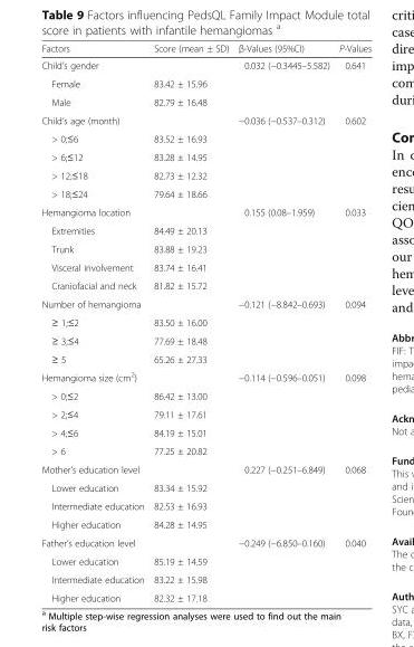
<table><thead><tr><td>Factors</td><td>Score (mean ± SD)</td><td>β-Values (95%CI)</td><td>P-Values</td></tr></thead><tbody><tr><td>Child’s gender</td><td></td><td>0.032 (−0.3445–5.582)</td><td>0.641</td></tr><tr><td>Female</td><td>83.42 ± 15.96</td><td></td><td></td></tr><tr><td>Male</td><td>82.79 ± 16.48</td><td></td><td></td></tr><tr><td>Child’s age (month)</td><td></td><td>−0.036 (−0.537–0.312)</td><td>0.602</td></tr><tr><td>&gt; 0;≤6</td><td>83.52 ± 16.93</td><td></td><td></td></tr><tr><td>&gt; 6;≤12</td><td>83.28 ± 14.95</td><td></td><td></td></tr><tr><td>&gt; 12;≤18</td><td>82.73 ± 12.32</td><td></td><td></td></tr><tr><td>&gt; 18;≤24</td><td>79.64 ± 18.66</td><td></td><td></td></tr><tr><td>Hemangioma location</td><td></td><td>0.155 (0.08–1.959)</td><td>0.033</td></tr><tr><td>Extremities</td><td>84.49 ± 20.13</td><td></td><td></td></tr><tr><td>Trunk</td><td>83.88 ± 19.23</td><td></td><td></td></tr><tr><td>Visceral involvement</td><td>83.74 ± 16.41</td><td></td><td></td></tr><tr><td>Craniofacial and neck</td><td>81.82 ± 15.72</td><td></td><td></td></tr><tr><td>Number of hemangioma</td><td></td><td>−0.121 (−8.842–0.693)</td><td>0.094</td></tr><tr><td>≥ 1;≤2</td><td>83.50 ± 16.00</td><td></td><td></td></tr><tr><td>≥ 3;≤4</td><td>77.69 ± 18.48</td><td></td><td></td></tr><tr><td>≥ 5</td><td>65.26 ± 27.33</td><td></td><td></td></tr><tr><td>Hemangioma size (cm<sup>2</sup>)</td><td></td><td>−0.114 (−0.596–0.051)</td><td>0.098</td></tr><tr><td>&gt; 0;≤2</td><td>86.42 ± 13.00</td><td></td><td></td></tr><tr><td>&gt; 2;≤4</td><td>79.11 ± 17.61</td><td></td><td></td></tr><tr><td>&gt; 4;≤6</td><td>84.19 ± 15.01</td><td></td><td></td></tr><tr><td>&gt; 6</td><td>77.25 ± 20.82</td><td></td><td></td></tr><tr><td>Mother’s education level</td><td></td><td>0.227 (−0.251–6.849)</td><td>0.068</td></tr><tr><td>Lower education</td><td>83.34 ± 15.92</td><td></td><td></td></tr><tr><td>Intermediate education</td><td>82.53 ± 16.93</td><td></td><td></td></tr><tr><td>Higher education</td><td>84.28 ± 14.95</td><td></td><td></td></tr><tr><td>Father’s education level</td><td></td><td>−0.249 (−6.850–0.160)</td><td>0.040</td></tr><tr><td>Lower education</td><td>85.19 ± 14.59</td><td></td><td></td></tr><tr><td>Intermediate education</td><td>83.22 ± 15.98</td><td></td><td></td></tr><tr><td>Higher education</td><td>82.32 ± 17.18</td><td></td><td></td></tr></tbody></table>